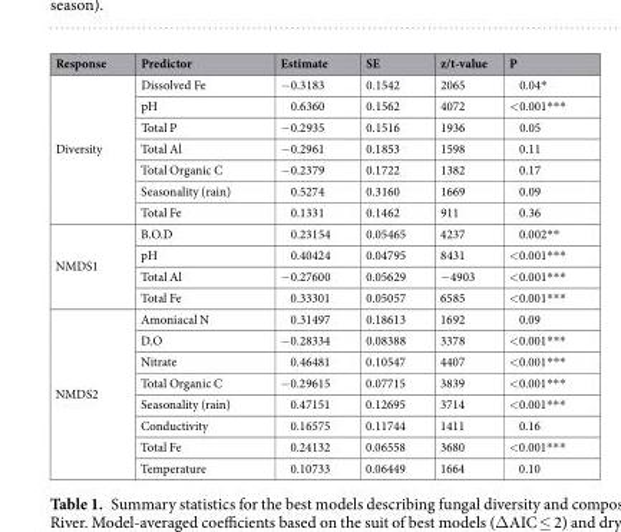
<table><thead><tr><td>Response</td><td>Predictor</td><td>Estimate</td><td>SE</td><td>z/t-value</td><td>P</td></tr></thead><tbody><tr><td rowspan="7">Diversity</td><td>Dissolved Fe</td><td>−0.3183</td><td>0.1542</td><td>2065</td><td>0.04*</td></tr><tr><td>pH</td><td>0.6360</td><td>0.1562</td><td>4072</td><td>&lt;0.001***</td></tr><tr><td>Total P</td><td>−0.2935</td><td>0.1516</td><td>1936</td><td>0.05</td></tr><tr><td>Total Al</td><td>−0.2961</td><td>0.1853</td><td>1598</td><td>0.11</td></tr><tr><td>Total Organic C</td><td>−0.2379</td><td>0.1722</td><td>1382</td><td>0.17</td></tr><tr><td>Seasonality (rain)</td><td>0.5274</td><td>0.3160</td><td>1669</td><td>0.09</td></tr><tr><td>Total Fe</td><td>0.1331</td><td>0.1462</td><td>911</td><td>0.36</td></tr><tr><td rowspan="4">NMDS1</td><td>B.O.D</td><td>0.23154</td><td>0.05465</td><td>4237</td><td>0.002**</td></tr><tr><td>pH</td><td>0.40424</td><td>0.04795</td><td>8431</td><td>&lt;0.001***</td></tr><tr><td>Total Al</td><td>−0.27600</td><td>0.05629</td><td>−4903</td><td>&lt;0.001***</td></tr><tr><td>Total Fe</td><td>0.33301</td><td>0.05057</td><td>6585</td><td>&lt;0.001***</td></tr><tr><td rowspan="8">NMDS2</td><td>Amoniacal N</td><td>0.31497</td><td>0.18613</td><td>1692</td><td>0.09</td></tr><tr><td>D.O</td><td>−0.28334</td><td>0.08388</td><td>3378</td><td>&lt;0.001***</td></tr><tr><td>Nitrate</td><td>0.46481</td><td>0.10547</td><td>4407</td><td>&lt;0.001***</td></tr><tr><td>Total Organic C</td><td>−0.29615</td><td>0.07715</td><td>3839</td><td>&lt;0.001***</td></tr><tr><td>Seasonality (rain)</td><td>0.47151</td><td>0.12695</td><td>3714</td><td>&lt;0.001***</td></tr><tr><td>Conductivity</td><td>0.16575</td><td>0.11744</td><td>1411</td><td>0.16</td></tr><tr><td>Total Fe</td><td>0.24132</td><td>0.06558</td><td>3680</td><td>&lt;0.001***</td></tr><tr><td>Temperature</td><td>0.10733</td><td>0.06449</td><td>1664</td><td>0.10</td></tr></tbody></table>